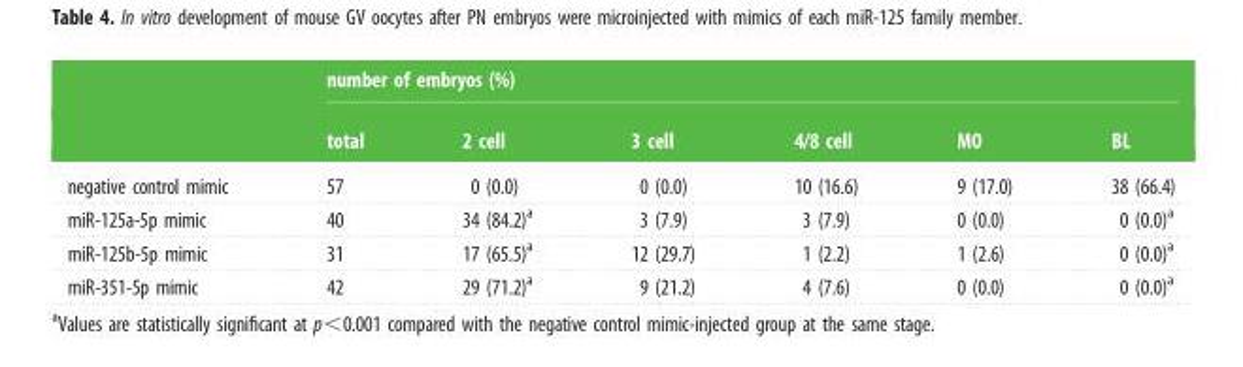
<table><thead><tr><td rowspan="2"></td><td colspan="6">number of embryos (%)</td></tr><tr><td>total</td><td>2 cell</td><td>3 cell</td><td>4/8 cell</td><td>MO</td><td>BL</td></tr></thead><tbody><tr><td>negative control mimic</td><td>57</td><td>0 (0.0)</td><td>0 (0.0)</td><td>10 (16.6)</td><td>9 (17.0)</td><td>38 (66.4)</td></tr><tr><td>miR-125a-5p mimic</td><td>40</td><td>34 (84.2)<sup>a</sup></td><td>3 (7.9)</td><td>3 (7.9)</td><td>0 (0.0)</td><td>0 (0.0)<sup>a</sup></td></tr><tr><td>miR-125b-5p mimic</td><td>31</td><td>17 (65.5)<sup>a</sup></td><td>12 (29.7)</td><td>1 (2.2)</td><td>1 (2.6)</td><td>0 (0.0)<sup>a</sup></td></tr><tr><td>miR-351-5p mimic</td><td>42</td><td>29 (71.2)<sup>a</sup></td><td>9 (21.2)</td><td>4 (7.6)</td><td>0 (0.0)</td><td>0 (0.0)<sup>a</sup></td></tr></tbody></table>